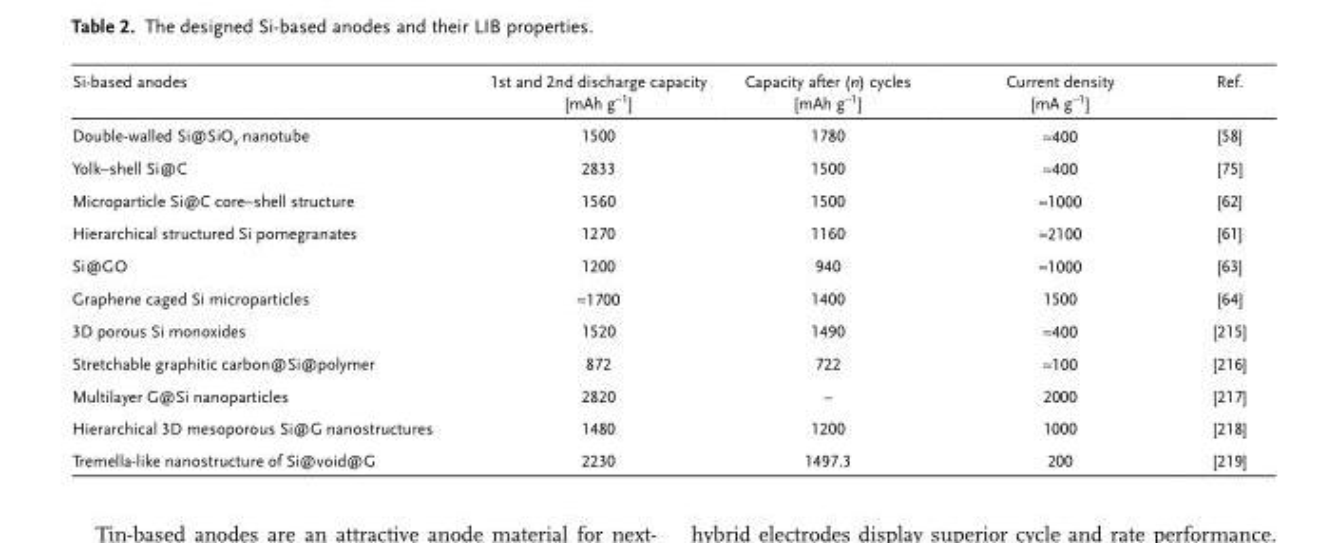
<table><thead><tr><td>Si-based anodes</td><td>1st and 2nd discharge capacity [mAh g<sup>−1</sup>]</td><td>Capacity after (n) cycles [mAh g<sup>−1</sup>]</td><td>Current density [mA g<sup>−1</sup>]</td><td>Ref.</td></tr></thead><tbody><tr><td>Double-walled Si@SiO<sub>x</sub> nanotube</td><td>1500</td><td>1780</td><td>≈400</td><td>[58]</td></tr><tr><td>Yolk–shell Si@C</td><td>2833</td><td>1500</td><td>≈400</td><td>[75]</td></tr><tr><td>Microparticle Si@C core–shell structure</td><td>1560</td><td>1500</td><td>≈1000</td><td>[62]</td></tr><tr><td>Hierarchical structured Si pomegranates</td><td>1270</td><td>1160</td><td>≈2100</td><td>[61]</td></tr><tr><td>Si@GO</td><td>1200</td><td>940</td><td>≈1000</td><td>[63]</td></tr><tr><td>Graphene caged Si microparticles</td><td>≈1700</td><td>1400</td><td>1500</td><td>[64]</td></tr><tr><td>3D porous Si monoxides</td><td>1520</td><td>1490</td><td>≈400</td><td>[215]</td></tr><tr><td>Stretchable graphitic carbon@Si@polymer</td><td>872</td><td>722</td><td>≈100</td><td>[216]</td></tr><tr><td>Multilayer G@Si nanoparticles</td><td>2820</td><td>–</td><td>2000</td><td>[217]</td></tr><tr><td>Hierarchical 3D mesoporous Si@G nanostructures</td><td>1480</td><td>1200</td><td>1000</td><td>[218]</td></tr><tr><td>Tremella-like nanostructure of Si@void@G</td><td>2230</td><td>1497.3</td><td>200</td><td>[219]</td></tr></tbody></table>